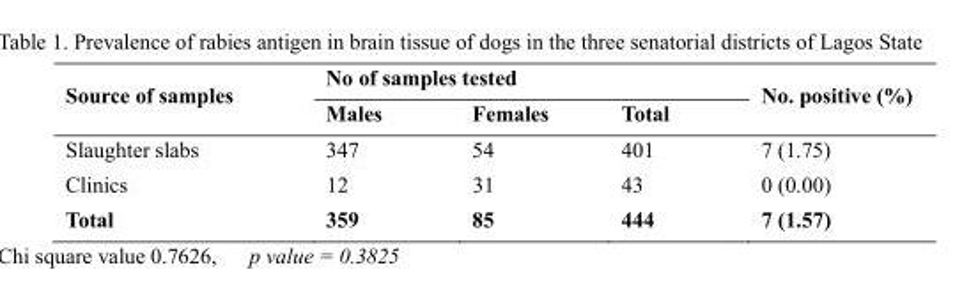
<table><thead><tr><td rowspan="2">Source of samples</td><td colspan="3">No of samples tested</td><td rowspan="2">No. positive (%)</td></tr><tr><td>Males</td><td>Females</td><td>Total</td></tr></thead><tbody><tr><td>Slaughter slabs</td><td>347</td><td>54</td><td>401</td><td>7 (1.75)</td></tr><tr><td>Clinics</td><td>12</td><td>31</td><td>43</td><td>0 (0.00)</td></tr><tr><td>Total</td><td>359</td><td>85</td><td>444</td><td>7 (1.57)</td></tr></tbody></table>